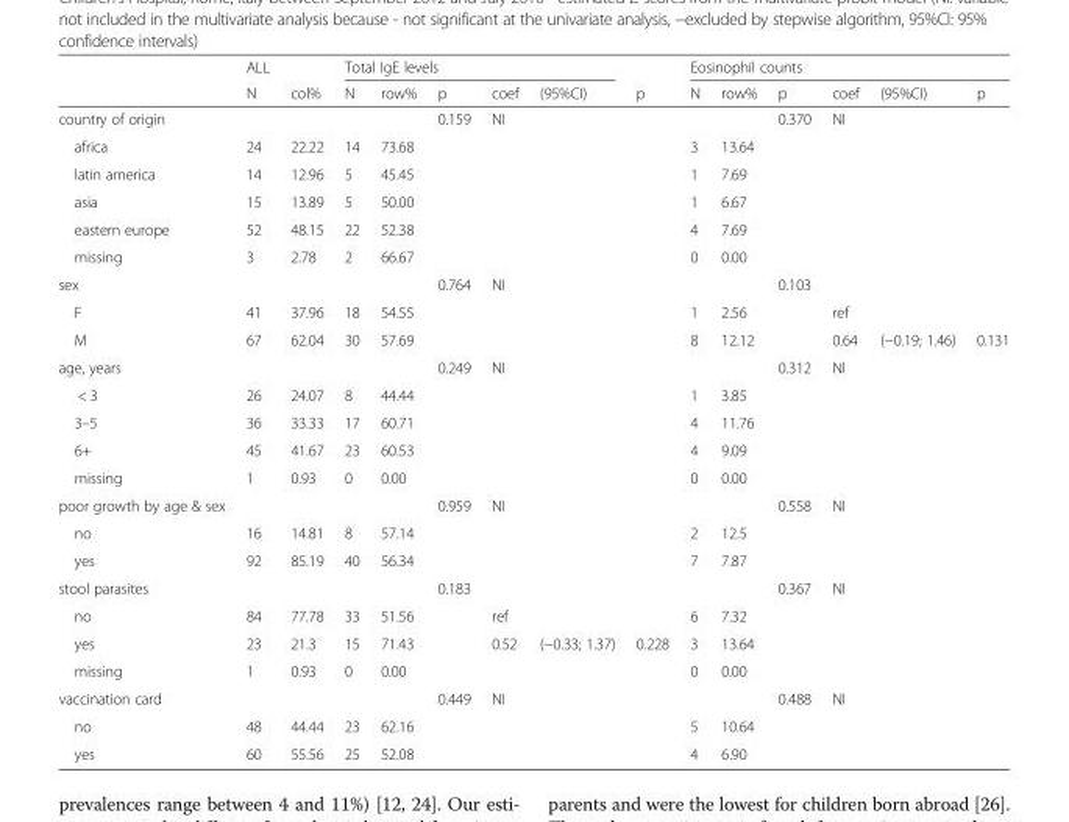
<table><thead><tr><td rowspan="2"></td><td rowspan="2">ALL N</td><td rowspan="2">col%</td><td colspan="5">Total IgE levels</td><td rowspan="2">p</td><td colspan="6">Eosinophil counts</td></tr><tr><td>N</td><td>row%</td><td>p</td><td>coef</td><td>(95%CI)</td><td>N</td><td>row%</td><td>p</td><td>coef</td><td>(95%CI)</td><td>p</td></tr></thead><tbody><tr><td>country of origin</td><td></td><td></td><td></td><td></td><td>0.159</td><td>NI</td><td></td><td></td><td></td><td></td><td>0.370</td><td>NI</td><td></td><td></td></tr><tr><td>africa</td><td>24</td><td>22.22</td><td>14</td><td>73.68</td><td></td><td></td><td></td><td></td><td>3</td><td>13.64</td><td></td><td></td><td></td><td></td></tr><tr><td>latin america</td><td>14</td><td>12.96</td><td>5</td><td>45.45</td><td></td><td></td><td></td><td></td><td>1</td><td>7.69</td><td></td><td></td><td></td><td></td></tr><tr><td>asia</td><td>15</td><td>13.89</td><td>5</td><td>50.00</td><td></td><td></td><td></td><td></td><td>1</td><td>6.67</td><td></td><td></td><td></td><td></td></tr><tr><td>eastern europe</td><td>52</td><td>48.15</td><td>22</td><td>52.38</td><td></td><td></td><td></td><td></td><td>4</td><td>7.69</td><td></td><td></td><td></td><td></td></tr><tr><td>missing</td><td>3</td><td>2.78</td><td>2</td><td>66.67</td><td></td><td></td><td></td><td></td><td>0</td><td>0.00</td><td></td><td></td><td></td><td></td></tr><tr><td>sex</td><td></td><td></td><td></td><td></td><td>0.764</td><td>NI</td><td></td><td></td><td></td><td></td><td>0.103</td><td></td><td></td><td></td></tr><tr><td>F</td><td>41</td><td>37.96</td><td>18</td><td>54.55</td><td></td><td></td><td></td><td></td><td>1</td><td>2.56</td><td></td><td>ref</td><td></td><td></td></tr><tr><td>M</td><td>67</td><td>62.04</td><td>30</td><td>57.69</td><td></td><td></td><td></td><td></td><td>8</td><td>12.12</td><td></td><td>0.64</td><td>(−0.19; 1.46)</td><td>0.131</td></tr><tr><td>age, years</td><td></td><td></td><td></td><td></td><td>0.249</td><td>NI</td><td></td><td></td><td></td><td></td><td>0.312</td><td>NI</td><td></td><td></td></tr><tr><td>&lt; 3</td><td>26</td><td>24.07</td><td>8</td><td>44.44</td><td></td><td></td><td></td><td></td><td>1</td><td>3.85</td><td></td><td></td><td></td><td></td></tr><tr><td>3–5</td><td>36</td><td>33.33</td><td>17</td><td>60.71</td><td></td><td></td><td></td><td></td><td>4</td><td>11.76</td><td></td><td></td><td></td><td></td></tr><tr><td>6+</td><td>45</td><td>41.67</td><td>23</td><td>60.53</td><td></td><td></td><td></td><td></td><td>4</td><td>9.09</td><td></td><td></td><td></td><td></td></tr><tr><td>missing</td><td>1</td><td>0.93</td><td>0</td><td>0.00</td><td></td><td></td><td></td><td></td><td>0</td><td>0.00</td><td></td><td></td><td></td><td></td></tr><tr><td>poor growth by age &amp; sex</td><td></td><td></td><td></td><td></td><td>0.959</td><td>NI</td><td></td><td></td><td></td><td></td><td>0.558</td><td>NI</td><td></td><td></td></tr><tr><td>no</td><td>16</td><td>14.81</td><td>8</td><td>57.14</td><td></td><td></td><td></td><td></td><td>2</td><td>12.5</td><td></td><td></td><td></td><td></td></tr><tr><td>yes</td><td>92</td><td>85.19</td><td>40</td><td>56.34</td><td></td><td></td><td></td><td></td><td>7</td><td>7.87</td><td></td><td></td><td></td><td></td></tr><tr><td>stool parasites</td><td></td><td></td><td></td><td></td><td>0.183</td><td></td><td></td><td></td><td></td><td></td><td>0.367</td><td>NI</td><td></td><td></td></tr><tr><td>no</td><td>84</td><td>77.78</td><td>33</td><td>51.56</td><td></td><td>ref</td><td></td><td></td><td>6</td><td>7.32</td><td></td><td></td><td></td><td></td></tr><tr><td>yes</td><td>23</td><td>21.3</td><td>15</td><td>71.43</td><td></td><td>0.52</td><td>(−0.33; 1.37)</td><td>0.228</td><td>3</td><td>13.64</td><td></td><td></td><td></td><td></td></tr><tr><td>missing</td><td>1</td><td>0.93</td><td>0</td><td>0.00</td><td></td><td></td><td></td><td></td><td>0</td><td>0.00</td><td></td><td></td><td></td><td></td></tr><tr><td>vaccination card</td><td></td><td></td><td></td><td></td><td>0.449</td><td>NI</td><td></td><td></td><td></td><td></td><td>0.488</td><td>NI</td><td></td><td></td></tr><tr><td>no</td><td>48</td><td>44.44</td><td>23</td><td>62.16</td><td></td><td></td><td></td><td></td><td>5</td><td>10.64</td><td></td><td></td><td></td><td></td></tr><tr><td>yes</td><td>60</td><td>55.56</td><td>25</td><td>52.08</td><td></td><td></td><td></td><td></td><td>4</td><td>6.90</td><td></td><td></td><td></td><td></td></tr></tbody></table>